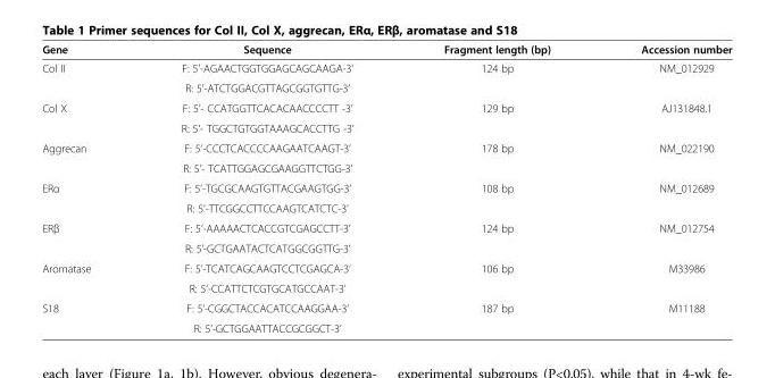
<table><thead><tr><td>Gene</td><td>Sequence</td><td>Fragment length (bp)</td><td>Accession number</td></tr></thead><tbody><tr><td rowspan="2">Col II</td><td>F: 5’-AGAACTGGTGGAGCAGCAAGA-3&#x27;</td><td rowspan="2">124 bp</td><td rowspan="2">NM_012929</td></tr><tr><td>R: 5’-ATCTGGACGTTAGCGGTGTTG-3’</td></tr><tr><td rowspan="2">Col X</td><td>F: 5’- CCATGGTTCACACAACCCCTT -3’</td><td rowspan="2">129 bp</td><td rowspan="2">AJ131848.1</td></tr><tr><td>R: 5’- TGGCTGTGGTAAAGCACCTTG -3’</td></tr><tr><td rowspan="2">Aggrecan</td><td>F: 5’-CCCTCACCCCAAGAATCAAGT-3’</td><td rowspan="2">178 bp</td><td rowspan="2">NM_022190</td></tr><tr><td>R: 5’- TCATTGGAGCGAAGGTTCTGG-3’</td></tr><tr><td rowspan="2">ERα</td><td>F: 5’-TGCGCAAGTGTTACGAAGTGG-3’</td><td rowspan="2">108 bp</td><td rowspan="2">NM_012689</td></tr><tr><td>R: 5’-TTCGGCCTTCCAAGTCATCTC-3’</td></tr><tr><td rowspan="2">ERβ</td><td>F: 5’-AAAAACTCACCGTCGAGCCTT-3’</td><td rowspan="2">124 bp</td><td rowspan="2">NM_012754</td></tr><tr><td>R: 5’-GCTGAATACTCATGGCGGTTG-3’</td></tr><tr><td rowspan="2">Aromatase</td><td>F: 5’-TCATCAGCAAGTCCTCGAGCA-3’</td><td rowspan="2">106 bp</td><td rowspan="2">M33986</td></tr><tr><td>R: 5’-CCATTCTCGTGCATGCCAAT-3’</td></tr><tr><td rowspan="2">S18</td><td>F: 5’-CGGCTACCACATCCAAGGAA-3’</td><td rowspan="2">187 bp</td><td rowspan="2">M11188</td></tr><tr><td>R: 5’-GCTGGAATTACCGCGGCT-3’</td></tr></tbody></table>